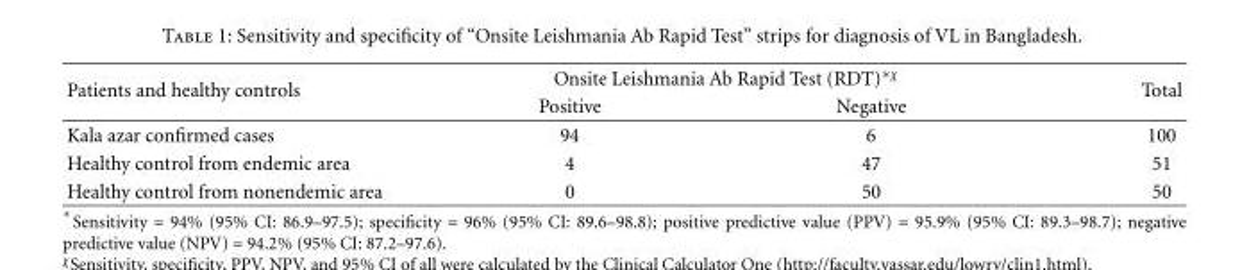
<table><thead><tr><td rowspan="2">Patients and healthy controls</td><td colspan="2">Onsite Leishmania Ab Rapid Test (RDT)<sup>∗χ</sup></td><td rowspan="2">Total</td></tr><tr><td>Positive</td><td>Negative</td></tr></thead><tbody><tr><td>Kala azar confirmed cases</td><td>94</td><td>6</td><td>100</td></tr><tr><td>Healthy control from endemic area</td><td>4</td><td>47</td><td>51</td></tr><tr><td>Healthy control from nonendemic area</td><td>0</td><td>50</td><td>50</td></tr></tbody></table>